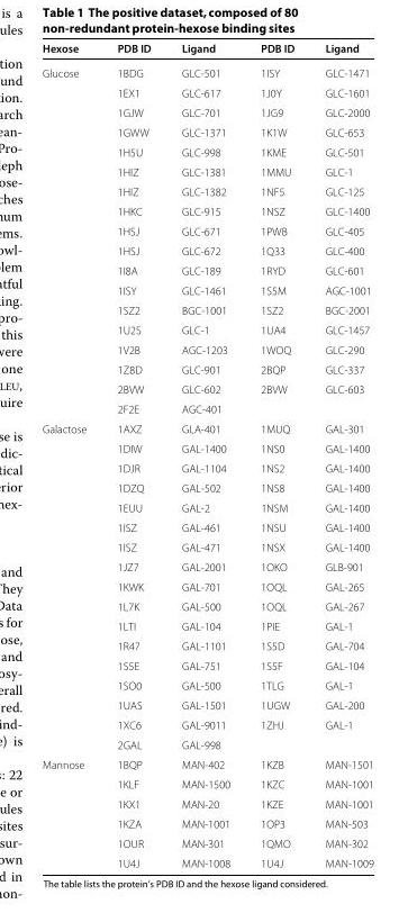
<table><thead><tr><td>Hexose</td><td>PDB ID</td><td>Ligand</td><td>PDB ID</td><td>Ligand</td></tr></thead><tbody><tr><td rowspan="18">Glucose</td><td>1BDG</td><td>GLC-501</td><td>1ISY</td><td>GLC-1471</td></tr><tr><td>1EX1</td><td>GLC-617</td><td>1J0Y</td><td>GLC-1601</td></tr><tr><td>1GJW</td><td>GLC-701</td><td>1JG9</td><td>GLC-2000</td></tr><tr><td>1GWW</td><td>GLC-1371</td><td>1K1W</td><td>GLC-653</td></tr><tr><td>1H5U</td><td>GLC-998</td><td>1KME</td><td>GLC-501</td></tr><tr><td>1HIZ</td><td>GLC-1381</td><td>1MMU</td><td>GLC-1</td></tr><tr><td>1HIZ</td><td>GLC-1382</td><td>1NF5</td><td>GLC-125</td></tr><tr><td>1HKC</td><td>GLC-915</td><td>1NSZ</td><td>GLC-1400</td></tr><tr><td>1HSJ</td><td>GLC-671</td><td>1PWB</td><td>GLC-405</td></tr><tr><td>1HSJ</td><td>GLC-672</td><td>1Q33</td><td>GLC-400</td></tr><tr><td>1I8A</td><td>GLC-189</td><td>1RYD</td><td>GLC-601</td></tr><tr><td>1ISY</td><td>GLC-1461</td><td>1S5M</td><td>AGC-1001</td></tr><tr><td>1SZ2</td><td>BGC-1001</td><td>1SZ2</td><td>BGC-2001</td></tr><tr><td>1U2S</td><td>GLC-1</td><td>1UA4</td><td>GLC-1457</td></tr><tr><td>1V2B</td><td>AGC-1203</td><td>1WOQ</td><td>GLC-290</td></tr><tr><td>1Z8D</td><td>GLC-901</td><td>2BQP</td><td>GLC-337</td></tr><tr><td>2BVW</td><td>GLC-602</td><td>2BVW</td><td>GLC-603</td></tr><tr><td>2F2E</td><td>AGC-401</td><td></td><td></td></tr><tr><td rowspan="17">Galactose</td><td>1AXZ</td><td>GLA-401</td><td>1MUQ</td><td>GAL-301</td></tr><tr><td>1DIW</td><td>GAL-1400</td><td>1NS0</td><td>GAL-1400</td></tr><tr><td>1DJR</td><td>GAL-1104</td><td>1NS2</td><td>GAL-1400</td></tr><tr><td>1DZQ</td><td>GAL-502</td><td>1NS8</td><td>GAL-1400</td></tr><tr><td>1EUU</td><td>GAL-2</td><td>1NSM</td><td>GAL-1400</td></tr><tr><td>1ISZ</td><td>GAL-461</td><td>1NSU</td><td>GAL-1400</td></tr><tr><td>1ISZ</td><td>GAL-471</td><td>1NSX</td><td>GAL-1400</td></tr><tr><td>1JZ7</td><td>GAL-2001</td><td>1OKO</td><td>GLB-901</td></tr><tr><td>1KWK</td><td>GAL-701</td><td>1OQL</td><td>GAL-265</td></tr><tr><td>1L7K</td><td>GAL-500</td><td>1OQL</td><td>GAL-267</td></tr><tr><td>1LTI</td><td>GAL-104</td><td>1PIE</td><td>GAL-1</td></tr><tr><td>1R47</td><td>GAL-1101</td><td>1S5D</td><td>GAL-704</td></tr><tr><td>1S5E</td><td>GAL-751</td><td>1S5F</td><td>GAL-104</td></tr><tr><td>1SO0</td><td>GAL-500</td><td>1TLG</td><td>GAL-1</td></tr><tr><td>1UAS</td><td>GAL-1501</td><td>1UGW</td><td>GAL-200</td></tr><tr><td>1XC6</td><td>GAL-9011</td><td>1ZHJ</td><td>GAL-1</td></tr><tr><td>2GAL</td><td>GAL-998</td><td></td><td></td></tr><tr><td rowspan="6">Mannose</td><td>1BQP</td><td>MAN-402</td><td>1KZB</td><td>MAN-1501</td></tr><tr><td>1KLF</td><td>MAN-1500</td><td>1KZC</td><td>MAN-1001</td></tr><tr><td>1KX1</td><td>MAN-20</td><td>1KZE</td><td>MAN-1001</td></tr><tr><td>1KZA</td><td>MAN-1001</td><td>1OP3</td><td>MAN-503</td></tr><tr><td>1OUR</td><td>MAN-301</td><td>1QMO</td><td>MAN-302</td></tr><tr><td>1U4J</td><td>MAN-1008</td><td>1U4J</td><td>MAN-1009</td></tr></tbody></table>